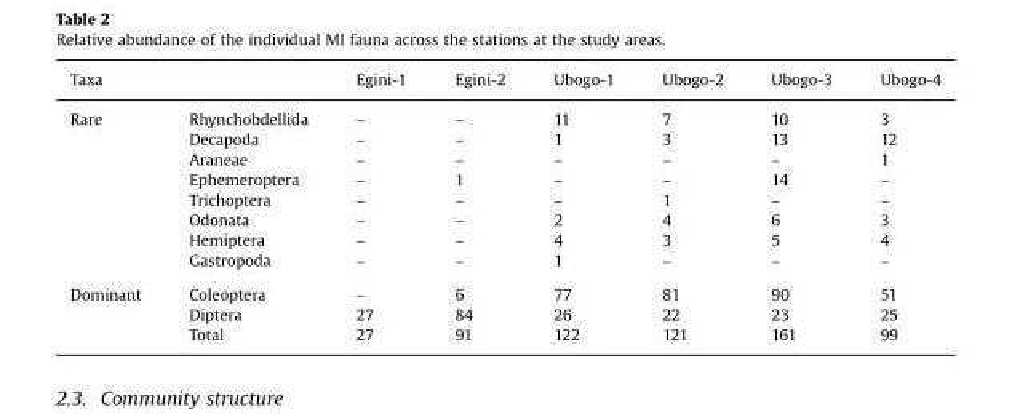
<table><thead><tr><td colspan="2">Taxa</td><td rowspan="2">Egini-1 –</td><td rowspan="2">Egini-2 –</td><td rowspan="2">Ubogo-1 11</td><td rowspan="2">Ubogo-2 7</td><td rowspan="2">Ubogo-3 10</td><td rowspan="2">Ubogo-4 3</td></tr><tr><td>Rare</td><td>Rhynchobdellida</td></tr></thead><tbody><tr><td></td><td>Decapoda</td><td>–</td><td>–</td><td>1</td><td>3</td><td>13</td><td>12</td></tr><tr><td></td><td>Araneae</td><td>–</td><td>–</td><td>–</td><td>–</td><td>–</td><td>1</td></tr><tr><td></td><td>Ephemeroptera</td><td>–</td><td>1</td><td>–</td><td>–</td><td>14</td><td>–</td></tr><tr><td></td><td>Trichoptera</td><td>–</td><td>–</td><td>–</td><td>1</td><td>–</td><td>–</td></tr><tr><td></td><td>Odonata</td><td>–</td><td>–</td><td>2</td><td>4</td><td>6</td><td>3</td></tr><tr><td></td><td>Hemiptera</td><td>–</td><td>–</td><td>4</td><td>3</td><td>5</td><td>4</td></tr><tr><td></td><td>Gastropoda</td><td>–</td><td>–</td><td>1</td><td>–</td><td>–</td><td>–</td></tr><tr><td rowspan="3">Dominant</td><td>Coleoptera</td><td>–</td><td>6</td><td>77</td><td>81</td><td>90</td><td>51</td></tr><tr><td>Diptera</td><td>27</td><td>84</td><td>26</td><td>22</td><td>23</td><td>25</td></tr><tr><td>Total</td><td>27</td><td>91</td><td>122</td><td>121</td><td>161</td><td>99</td></tr></tbody></table>